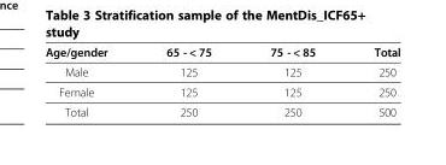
<table><thead><tr><td>Age/gender</td><td>65 - &lt; 75</td><td>75 - &lt; 85</td><td>Total</td></tr></thead><tbody><tr><td>Male</td><td>125</td><td>125</td><td>250</td></tr><tr><td>Female</td><td>125</td><td>125</td><td>250</td></tr><tr><td>Total</td><td>250</td><td>250</td><td>500</td></tr></tbody></table>